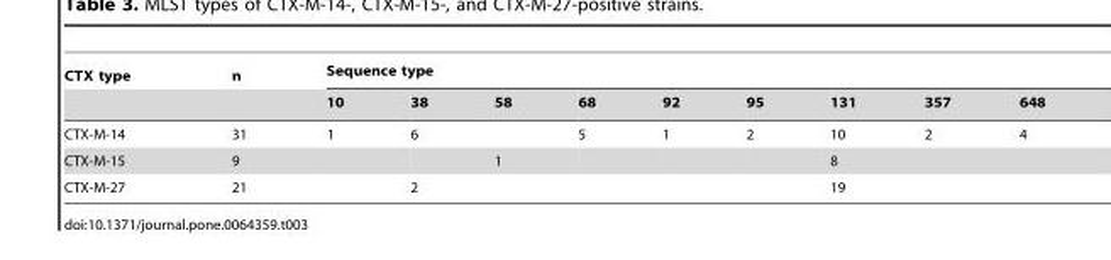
<table><thead><tr><td rowspan="2">CTX type</td><td rowspan="2">n</td><td colspan="9">Sequence type</td></tr><tr><td>10</td><td>38</td><td>58</td><td>68</td><td>92</td><td>95</td><td>131</td><td>357</td><td>648</td></tr></thead><tbody><tr><td>CTX-M-14</td><td>31</td><td>1</td><td>6</td><td></td><td>5</td><td>1</td><td>2</td><td>10</td><td>2</td><td>4</td></tr><tr><td>CTX-M-15</td><td>9</td><td></td><td></td><td>1</td><td></td><td></td><td></td><td>8</td><td></td><td></td></tr><tr><td>CTX-M-27</td><td>21</td><td></td><td>2</td><td></td><td></td><td></td><td></td><td>19</td><td></td><td></td></tr></tbody></table>